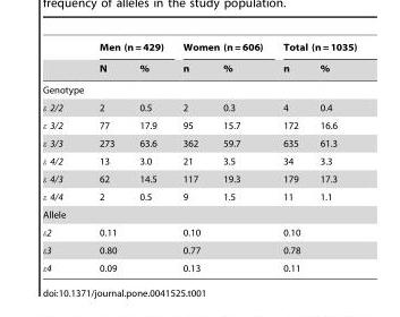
<table><thead><tr><td rowspan="2"></td><td colspan="2">Men (n = 429)</td><td colspan="2">Women (n = 606)</td><td colspan="2">Total (n = 1035)</td></tr><tr><td>N</td><td>%</td><td>n</td><td>%</td><td>n</td><td>%</td></tr></thead><tbody><tr><td colspan="7">Genotype</td></tr><tr><td>ε 2/2</td><td>2</td><td>0.5</td><td>2</td><td>0.3</td><td>4</td><td>0.4</td></tr><tr><td>ε 3/2</td><td>77</td><td>17.9</td><td>95</td><td>15.7</td><td>172</td><td>16.6</td></tr><tr><td>ε 3/3</td><td>273</td><td>63.6</td><td>362</td><td>59.7</td><td>635</td><td>61.3</td></tr><tr><td>ε 4/2</td><td>13</td><td>3.0</td><td>21</td><td>3.5</td><td>34</td><td>3.3</td></tr><tr><td>ε 4/3</td><td>62</td><td>14.5</td><td>117</td><td>19.3</td><td>179</td><td>17.3</td></tr><tr><td>ε 4/4</td><td>2</td><td>0.5</td><td>9</td><td>1.5</td><td>11</td><td>1.1</td></tr><tr><td colspan="7">Allele</td></tr><tr><td>ε2</td><td colspan="2">0.11</td><td colspan="2">0.10</td><td colspan="2">0.10</td></tr><tr><td>ε3</td><td colspan="2">0.80</td><td colspan="2">0.77</td><td colspan="2">0.78</td></tr><tr><td>ε4</td><td colspan="2">0.09</td><td colspan="2">0.13</td><td colspan="2">0.11</td></tr></tbody></table>